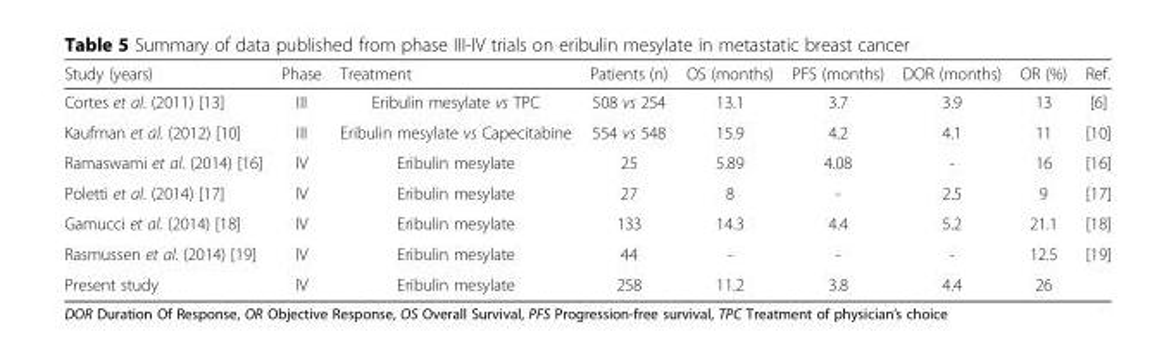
<table><thead><tr><td>Study (years)</td><td>Phase</td><td>Treatment</td><td>Patients (n)</td><td>OS (months)</td><td>PFS (months)</td><td>DOR (months)</td><td>OR (%)</td><td>Ref.</td></tr></thead><tbody><tr><td>Cortes et al. (2011) [13]</td><td>III</td><td>Eribulin mesylate vs TPC</td><td>508 vs 254</td><td>13.1</td><td>3.7</td><td>3.9</td><td>13</td><td>[6]</td></tr><tr><td>Kaufman et al. (2012) [10]</td><td>III</td><td>Eribulin mesylate vs Capecitabine</td><td>554 vs 548</td><td>15.9</td><td>4.2</td><td>4.1</td><td>11</td><td>[10]</td></tr><tr><td>Ramaswami et al. (2014) [16]</td><td>IV</td><td>Eribulin mesylate</td><td>25</td><td>5.89</td><td>4.08</td><td>-</td><td>16</td><td>[16]</td></tr><tr><td>Poletti et al. (2014) [17]</td><td>IV</td><td>Eribulin mesylate</td><td>27</td><td>8</td><td>-</td><td>2.5</td><td>9</td><td>[17]</td></tr><tr><td>Gamucci et al. (2014) [18]</td><td>IV</td><td>Eribulin mesylate</td><td>133</td><td>14.3</td><td>4.4</td><td>5.2</td><td>21.1</td><td>[18]</td></tr><tr><td>Rasmussen et al. (2014) [19]</td><td>IV</td><td>Eribulin mesylate</td><td>44</td><td>-</td><td>-</td><td>-</td><td>12.5</td><td>[19]</td></tr><tr><td>Present study</td><td>IV</td><td>Eribulin mesylate</td><td>258</td><td>11.2</td><td>3.8</td><td>4.4</td><td>26</td><td></td></tr></tbody></table>